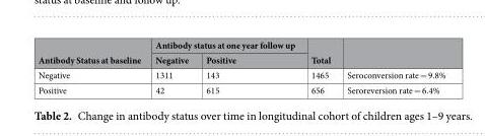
<table><thead><tr><td rowspan="2">Antibody Status at baseline</td><td colspan="2">Antibody status at one year follow up</td><td rowspan="2">Total</td><td rowspan="2"></td></tr><tr><td>Negative</td><td>Positive</td></tr></thead><tbody><tr><td>Negative</td><td>1311</td><td>143</td><td>1465</td><td>Seroconversion rate = 9.8%</td></tr><tr><td>Positive</td><td>42</td><td>615</td><td>656</td><td>Seroreversion rate = 6.4%</td></tr></tbody></table>